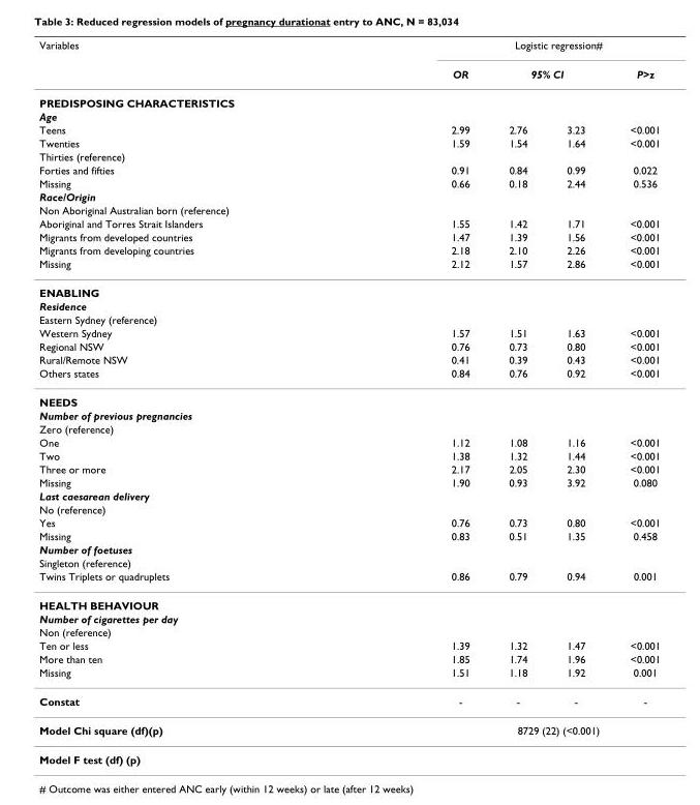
<table><thead><tr><td rowspan="3">Variables PREDISPOSING CHARACTERISTICS</td><td colspan="4">Logistic regression#</td></tr><tr><td rowspan="2">OR</td><td colspan="2">95% CI</td><td rowspan="2">P&gt;z</td></tr><tr><td></td><td></td></tr></thead><tbody><tr><td colspan="5">Age</td></tr><tr><td>Teens</td><td>2.99</td><td>2.76</td><td>3.23</td><td>&lt;0.001</td></tr><tr><td>Twenties</td><td>1.59</td><td>1.54</td><td>1.64</td><td>&lt;0.001</td></tr><tr><td colspan="5">Thirties (reference)</td></tr><tr><td>Forties and fifties</td><td>0.91</td><td>0.84</td><td>0.99</td><td>0.022</td></tr><tr><td>Missing</td><td>0.66</td><td>0.18</td><td>2.44</td><td>0.536</td></tr><tr><td colspan="5">Race/Origin</td></tr><tr><td colspan="5">Non Aboriginal Australian born (reference)</td></tr><tr><td>Aboriginal and Torres Strait Islanders</td><td>1.55</td><td>1.42</td><td>1.71</td><td>&lt;0.001</td></tr><tr><td>Migrants from developed countries</td><td>1.47</td><td>1.39</td><td>1.56</td><td>&lt;0.001</td></tr><tr><td>Migrants from developing countries</td><td>2.18</td><td>2.10</td><td>2.26</td><td>&lt;0.001</td></tr><tr><td>Missing</td><td>2.12</td><td>1.57</td><td>2.86</td><td>&lt;0.001</td></tr><tr><td colspan="5">ENABLING</td></tr><tr><td colspan="5">Residence</td></tr><tr><td colspan="5">Eastern Sydney (reference)</td></tr><tr><td>Western Sydney</td><td>1.57</td><td>1.51</td><td>1.63</td><td>&lt;0.001</td></tr><tr><td>Regional NSW</td><td>0.76</td><td>0.73</td><td>0.80</td><td>&lt;0.001</td></tr><tr><td>Rural/Remote NSW</td><td>0.41</td><td>0.39</td><td>0.43</td><td>&lt;0.001</td></tr><tr><td>Others states</td><td>0.84</td><td>0.76</td><td>0.92</td><td>&lt;0.001</td></tr><tr><td colspan="5">NEEDS</td></tr><tr><td colspan="5">Number of previous pregnancies</td></tr><tr><td colspan="5">Zero (reference)</td></tr><tr><td>One</td><td>1.12</td><td>1.08</td><td>1.16</td><td>&lt;0.001</td></tr><tr><td>Two</td><td>1.38</td><td>1.32</td><td>1.44</td><td>&lt;0.001</td></tr><tr><td>Three or more</td><td>2.17</td><td>2.05</td><td>2.30</td><td>&lt;0.001</td></tr><tr><td>Missing</td><td>1.90</td><td>0.93</td><td>3.92</td><td>0.080</td></tr><tr><td colspan="5">Last caesarean delivery</td></tr><tr><td colspan="5">No (reference)</td></tr><tr><td>Yes</td><td>0.76</td><td>0.73</td><td>0.80</td><td>&lt;0.001</td></tr><tr><td>Missing</td><td>0.83</td><td>0.51</td><td>1.35</td><td>0.458</td></tr><tr><td colspan="5">Number of foetuses</td></tr><tr><td colspan="5">Singleton (reference)</td></tr><tr><td>Twins Triplets or quadruplets</td><td>0.86</td><td>0.79</td><td>0.94</td><td>0.001</td></tr><tr><td colspan="5">HEALTH BEHAVIOUR</td></tr><tr><td colspan="5">Number of cigarettes per day</td></tr><tr><td colspan="5">Non (reference)</td></tr><tr><td>Ten or less</td><td>1.39</td><td>1.32</td><td>1.47</td><td>&lt;0.001</td></tr><tr><td>More than ten</td><td>1.85</td><td>1.74</td><td>1.96</td><td>&lt;0.001</td></tr><tr><td>Missing</td><td>1.51</td><td>1.18</td><td>1.92</td><td>0.001</td></tr><tr><td>Constat</td><td>-</td><td>-</td><td>-</td><td>-</td></tr><tr><td>Model Chi square (df)(p)</td><td colspan="4">8729 (22) (&lt;0.001)</td></tr><tr><td>Model F test (df) (p)</td><td></td><td></td><td></td><td></td></tr></tbody></table>